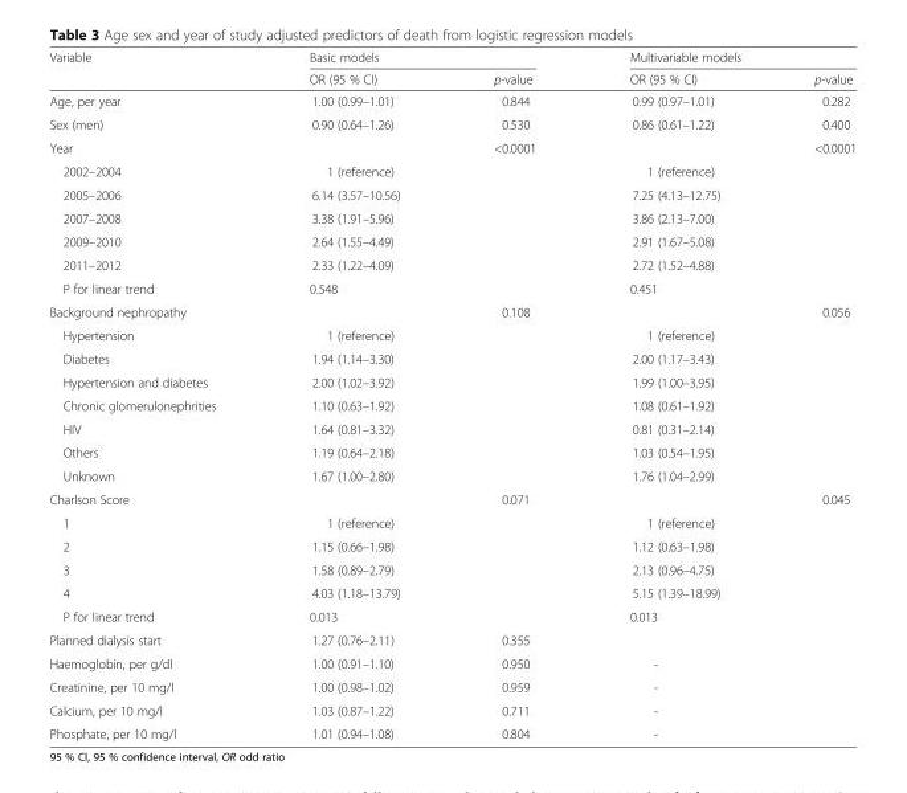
<table><thead><tr><td rowspan="2">Variable</td><td colspan="2">Basic models</td><td colspan="2">Multivariable models</td></tr><tr><td>OR (95 % CI)</td><td>p-value</td><td>OR (95 % CI)</td><td>p-value</td></tr></thead><tbody><tr><td>Age, per year</td><td>1.00 (0.99–1.01)</td><td>0.844</td><td>0.99 (0.97–1.01)</td><td>0.282</td></tr><tr><td>Sex (men)</td><td>0.90 (0.64–1.26)</td><td>0.530</td><td>0.86 (0.61–1.22)</td><td>0.400</td></tr><tr><td>Year</td><td></td><td>&lt;0.0001</td><td></td><td>&lt;0.0001</td></tr><tr><td>2002–2004</td><td>1 (reference)</td><td></td><td>1 (reference)</td><td></td></tr><tr><td>2005–2006</td><td>6.14 (3.57–10.56)</td><td></td><td>7.25 (4.13–12.75)</td><td></td></tr><tr><td>2007–2008</td><td>3.38 (1.91–5.96)</td><td></td><td>3.86 (2.13–7.00)</td><td></td></tr><tr><td>2009–2010</td><td>2.64 (1.55–4.49)</td><td></td><td>2.91 (1.67–5.08)</td><td></td></tr><tr><td>2011–2012</td><td>2.33 (1.22–4.09)</td><td></td><td>2.72 (1.52–4.88)</td><td></td></tr><tr><td>P for linear trend</td><td>0.548</td><td></td><td>0.451</td><td></td></tr><tr><td>Background nephropathy</td><td></td><td>0.108</td><td></td><td>0.056</td></tr><tr><td>Hypertension</td><td>1 (reference)</td><td></td><td>1 (reference)</td><td></td></tr><tr><td>Diabetes</td><td>1.94 (1.14–3.30)</td><td></td><td>2.00 (1.17–3.43)</td><td></td></tr><tr><td>Hypertension and diabetes</td><td>2.00 (1.02–3.92)</td><td></td><td>1.99 (1.00–3.95)</td><td></td></tr><tr><td>Chronic glomerulonephrities</td><td>1.10 (0.63–1.92)</td><td></td><td>1.08 (0.61–1.92)</td><td></td></tr><tr><td>HIV</td><td>1.64 (0.81–3.32)</td><td></td><td>0.81 (0.31–2.14)</td><td></td></tr><tr><td>Others</td><td>1.19 (0.64–2.18)</td><td></td><td>1.03 (0.54–1.95)</td><td></td></tr><tr><td>Unknown</td><td>1.67 (1.00–2.80)</td><td></td><td>1.76 (1.04–2.99)</td><td></td></tr><tr><td>Charlson Score</td><td></td><td>0.071</td><td></td><td>0.045</td></tr><tr><td>1</td><td>1 (reference)</td><td></td><td>1 (reference)</td><td></td></tr><tr><td>2</td><td>1.15 (0.66–1.98)</td><td></td><td>1.12 (0.63–1.98)</td><td></td></tr><tr><td>3</td><td>1.58 (0.89–2.79)</td><td></td><td>2.13 (0.96–4.75)</td><td></td></tr><tr><td>4</td><td>4.03 (1.18–13.79)</td><td></td><td>5.15 (1.39–18.99)</td><td></td></tr><tr><td>P for linear trend</td><td>0.013</td><td></td><td>0.013</td><td></td></tr><tr><td>Planned dialysis start</td><td>1.27 (0.76–2.11)</td><td>0.355</td><td></td><td></td></tr><tr><td>Haemoglobin, per g/dl</td><td>1.00 (0.91–1.10)</td><td>0.950</td><td>-</td><td></td></tr><tr><td>Creatinine, per 10 mg/l</td><td>1.00 (0.98–1.02)</td><td>0.959</td><td>-</td><td></td></tr><tr><td>Calcium, per 10 mg/l</td><td>1.03 (0.87–1.22)</td><td>0.711</td><td>-</td><td></td></tr><tr><td>Phosphate, per 10 mg/l</td><td>1.01 (0.94–1.08)</td><td>0.804</td><td>-</td><td></td></tr></tbody></table>